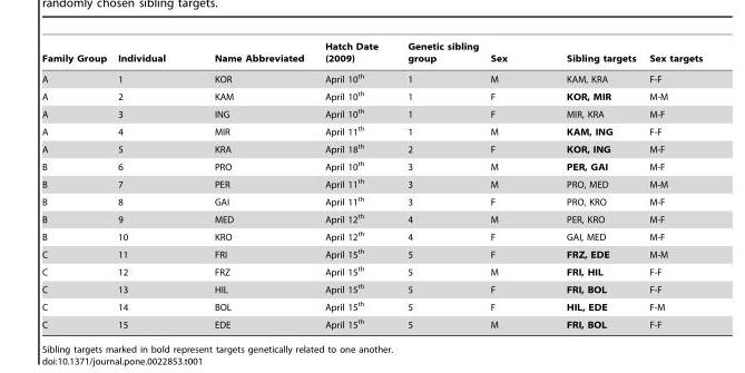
<table><thead><tr><td>Family Group</td><td>Individual</td><td>Name Abbreviated</td><td>Hatch Date (2009)</td><td>Genetic sibling group</td><td>Sex</td><td>Sibling targets</td><td>Sex targets</td></tr></thead><tbody><tr><td>A</td><td>1</td><td>KOR</td><td>April 10<sup>th</sup></td><td>1</td><td>M</td><td>KAM, KRA</td><td>F-F</td></tr><tr><td>A</td><td>2</td><td>KAM</td><td>April 10<sup>th</sup></td><td>1</td><td>F</td><td>KOR, MIR</td><td>M-M</td></tr><tr><td>A</td><td>3</td><td>ING</td><td>April 10<sup>th</sup></td><td>1</td><td>F</td><td>MIR, KRA</td><td>M-F</td></tr><tr><td>A</td><td>4</td><td>MIR</td><td>April 11<sup>th</sup></td><td>1</td><td>M</td><td>KAM, ING</td><td>F-F</td></tr><tr><td>A</td><td>5</td><td>KRA</td><td>April 18<sup>th</sup></td><td>2</td><td>F</td><td>KOR, ING</td><td>M-F</td></tr><tr><td>B</td><td>6</td><td>PRO</td><td>April 10<sup>th</sup></td><td>3</td><td>M</td><td>PER, GAI</td><td>M-F</td></tr><tr><td>B</td><td>7</td><td>PER</td><td>April 11<sup>th</sup></td><td>3</td><td>M</td><td>PRO, MED</td><td>M-M</td></tr><tr><td>B</td><td>8</td><td>GAI</td><td>April 11<sup>th</sup></td><td>3</td><td>F</td><td>PRO, KRO</td><td>M-F</td></tr><tr><td>B</td><td>9</td><td>MED</td><td>April 12<sup>th</sup></td><td>4</td><td>M</td><td>PER, KRO</td><td>M-F</td></tr><tr><td>B</td><td>10</td><td>KRO</td><td>April 12<sup>th</sup></td><td>4</td><td>F</td><td>GAI, MED</td><td>M-F</td></tr><tr><td>C</td><td>11</td><td>FRI</td><td>April 15<sup>th</sup></td><td>5</td><td>F</td><td>FRZ, EDE</td><td>M-M</td></tr><tr><td>C</td><td>12</td><td>FRZ</td><td>April 15<sup>th</sup></td><td>5</td><td>M</td><td>FRI, HIL</td><td>F-F</td></tr><tr><td>C</td><td>13</td><td>HIL</td><td>April 15<sup>th</sup></td><td>5</td><td>F</td><td>FRI, BOL</td><td>F-F</td></tr><tr><td>C</td><td>14</td><td>BOL</td><td>April 15<sup>th</sup></td><td>5</td><td>F</td><td>HIL, EDE</td><td>F-M</td></tr><tr><td>C</td><td>15</td><td>EDE</td><td>April 15<sup>th</sup></td><td>5</td><td>M</td><td>FRI, BOL</td><td>F-F</td></tr></tbody></table>